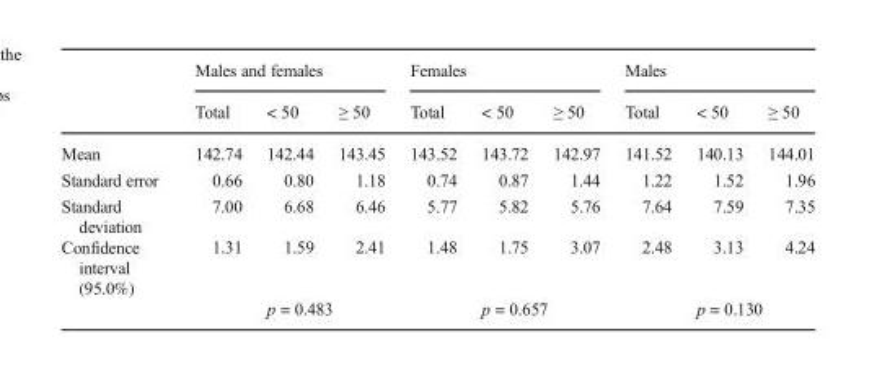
<table><thead><tr><td rowspan="2"></td><td colspan="3">Males and females</td><td colspan="3">Females</td><td colspan="3">Males</td></tr><tr><td>Total</td><td>&lt; 50</td><td>≥ 50</td><td>Total</td><td>&lt; 50</td><td>≥ 50</td><td>Total</td><td>&lt; 50</td><td>≥ 50</td></tr></thead><tbody><tr><td>Mean</td><td>142.74</td><td>142.44</td><td>143.45</td><td>143.52</td><td>143.72</td><td>142.97</td><td>141.52</td><td>140.13</td><td>144.01</td></tr><tr><td>Standard error</td><td>0.66</td><td>0.80</td><td>1.18</td><td>0.74</td><td>0.87</td><td>1.44</td><td>1.22</td><td>1.52</td><td>1.96</td></tr><tr><td>Standard deviation</td><td>7.00</td><td>6.68</td><td>6.46</td><td>5.77</td><td>5.82</td><td>5.76</td><td>7.64</td><td>7.59</td><td>7.35</td></tr><tr><td rowspan="2">Confidence interval (95.0%)</td><td>1.31</td><td>1.59</td><td>2.41</td><td>1.48</td><td>1.75</td><td>3.07</td><td>2.48</td><td>3.13</td><td>4.24</td></tr><tr><td></td><td colspan="2">p = 0.483</td><td></td><td colspan="2">p = 0.657</td><td></td><td colspan="2">p = 0.130</td></tr></tbody></table>